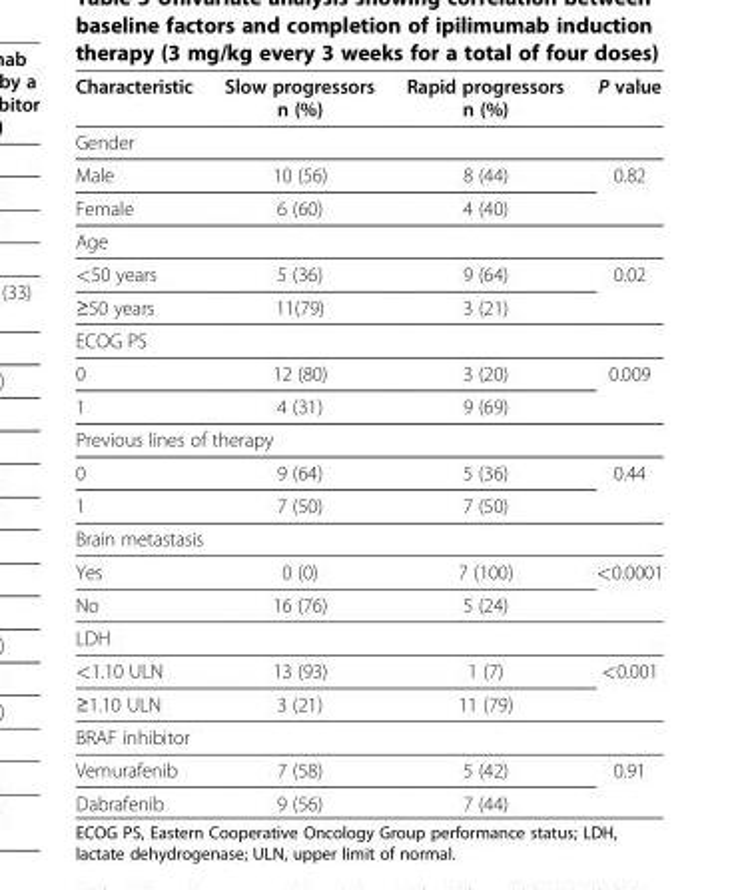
<table><thead><tr><td>Characteristic</td><td>Slow progressors n (%)</td><td>Rapid progressors n (%)</td><td>P value</td></tr></thead><tbody><tr><td colspan="4">Gender</td></tr><tr><td>Male</td><td>10 (56)</td><td>8 (44)</td><td rowspan="2">0.82</td></tr><tr><td>Female</td><td>6 (60)</td><td>4 (40)</td></tr><tr><td colspan="4">Age</td></tr><tr><td>&lt;50 years</td><td>5 (36)</td><td>9 (64)</td><td rowspan="2">0.02</td></tr><tr><td>≥50 years</td><td>11(79)</td><td>3 (21)</td></tr><tr><td colspan="4">ECOG PS</td></tr><tr><td>0</td><td>12 (80)</td><td>3 (20)</td><td rowspan="2">0.009</td></tr><tr><td>1</td><td>4 (31)</td><td>9 (69)</td></tr><tr><td colspan="4">Previous lines of therapy</td></tr><tr><td>0</td><td>9 (64)</td><td>5 (36)</td><td rowspan="2">0.44</td></tr><tr><td>1</td><td>7 (50)</td><td>7 (50)</td></tr><tr><td colspan="4">Brain metastasis</td></tr><tr><td>Yes</td><td>0 (0)</td><td>7 (100)</td><td rowspan="2">&lt;0.0001</td></tr><tr><td>No</td><td>16 (76)</td><td>5 (24)</td></tr><tr><td colspan="4">LDH</td></tr><tr><td>&lt;1.10 ULN</td><td>13 (93)</td><td>1 (7)</td><td rowspan="2">&lt;0.001</td></tr><tr><td>≥1.10 ULN</td><td>3 (21)</td><td>11 (79)</td></tr><tr><td colspan="4">BRAF inhibitor</td></tr><tr><td>Vemurafenib</td><td>7 (58)</td><td>5 (42)</td><td rowspan="2">0.91</td></tr><tr><td>Dabrafenib</td><td>9 (56)</td><td>7 (44)</td></tr></tbody></table>